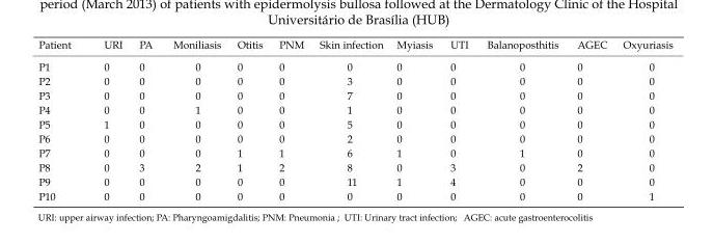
<table><thead><tr><td>Patient</td><td>URI</td><td>PA</td><td>Moniliasis</td><td>Otitis</td><td>PNM</td><td>Skin infection</td><td>Myiasis</td><td>UTI</td><td>Balanoposthitis</td><td>AGEC</td><td>Oxyuriasis</td></tr></thead><tbody><tr><td>P1</td><td>0</td><td>0</td><td>0</td><td>0</td><td>0</td><td>0</td><td>0</td><td>0</td><td>0</td><td>0</td><td>0</td></tr><tr><td>P2</td><td>0</td><td>0</td><td>0</td><td>0</td><td>0</td><td>3</td><td>0</td><td>0</td><td>0</td><td>0</td><td>0</td></tr><tr><td>P3</td><td>0</td><td>0</td><td>0</td><td>0</td><td>0</td><td>7</td><td>0</td><td>0</td><td>0</td><td>0</td><td>0</td></tr><tr><td>P4</td><td>0</td><td>0</td><td>1</td><td>0</td><td>0</td><td>1</td><td>0</td><td>0</td><td>0</td><td>0</td><td>0</td></tr><tr><td>P5</td><td>1</td><td>0</td><td>0</td><td>0</td><td>0</td><td>5</td><td>0</td><td>0</td><td>0</td><td>0</td><td>0</td></tr><tr><td>P6</td><td>0</td><td>0</td><td>0</td><td>0</td><td>0</td><td>2</td><td>0</td><td>0</td><td>0</td><td>0</td><td>0</td></tr><tr><td>P7</td><td>0</td><td>0</td><td>0</td><td>1</td><td>1</td><td>6</td><td>1</td><td>0</td><td>1</td><td>0</td><td>0</td></tr><tr><td>P8</td><td>0</td><td>3</td><td>2</td><td>1</td><td>2</td><td>8</td><td>0</td><td>3</td><td>0</td><td>2</td><td>0</td></tr><tr><td>P9</td><td>0</td><td>0</td><td>0</td><td>0</td><td>0</td><td>11</td><td>1</td><td>4</td><td>0</td><td>0</td><td>0</td></tr><tr><td>P10</td><td>0</td><td>0</td><td>0</td><td>0</td><td>0</td><td>0</td><td>0</td><td>0</td><td>0</td><td>0</td><td>1</td></tr></tbody></table>